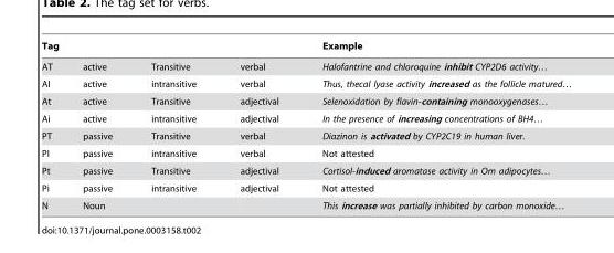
<table><thead><tr><td>Tag</td><td></td><td></td><td></td><td>Example</td></tr></thead><tbody><tr><td>AT</td><td>active</td><td>Transitive</td><td>verbal</td><td>Halofantrine and chloroquine inhibit CYP2D6 activity…</td></tr><tr><td>AI</td><td>active</td><td>intransitive</td><td>verbal</td><td>Thus, thecal lyase activity increased as the follicle matured…</td></tr><tr><td>At</td><td>active</td><td>Transitive</td><td>adjectival</td><td>Selenoxidation by flavin-containing monooxygenases…</td></tr><tr><td>Ai</td><td>active</td><td>intransitive</td><td>adjectival</td><td>In the presence of increasing concentrations of BH4…</td></tr><tr><td>PT</td><td>passive</td><td>Transitive</td><td>verbal</td><td>Diazinon is activated by CYP2C19 in human liver.</td></tr><tr><td>PI</td><td>passive</td><td>intransitive</td><td>verbal</td><td>Not attested</td></tr><tr><td>Pt</td><td>passive</td><td>Transitive</td><td>adjectival</td><td>Cortisol-induced aromatase activity in Om adipocytes…</td></tr><tr><td>Pi</td><td>passive</td><td>intransitive</td><td>adjectival</td><td>Not attested</td></tr><tr><td>N</td><td>Noun</td><td></td><td></td><td>This increase was partially inhibited by carbon monoxide…</td></tr></tbody></table>